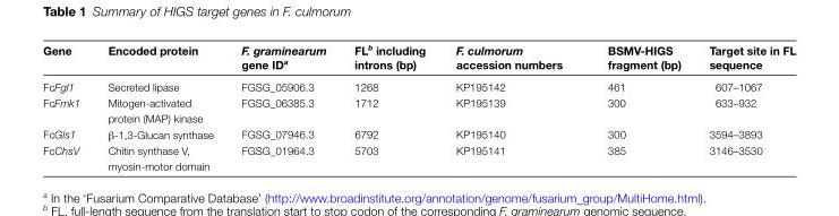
<table><thead><tr><td>Gene</td><td>Encoded protein</td><td>F. graminearum gene ID<sup>a</sup></td><td>FL<sup>b</sup> including introns (bp)</td><td>F. culmorum accession numbers</td><td>BSMV-HIGS fragment (bp)</td><td>Target site in FL sequence</td></tr></thead><tbody><tr><td>FcFgl1</td><td>Secreted lipase</td><td>FGSG_05906.3</td><td>1268</td><td>KP195142</td><td>461</td><td>607–1067</td></tr><tr><td>FcFmk1</td><td>Mitogen-activated protein (MAP) kinase</td><td>FGSG_06385.3</td><td>1712</td><td>KP195139</td><td>300</td><td>633–932</td></tr><tr><td>FcGls1</td><td>β-1,3-Glucan synthase</td><td>FGSG_07946.3</td><td>6792</td><td>KP195140</td><td>300</td><td>3594–3893</td></tr><tr><td>FcChsV</td><td>Chitin synthase V, myosin-motor domain</td><td>FGSG_01964.3</td><td>5703</td><td>KP195141</td><td>385</td><td>3146–3530</td></tr></tbody></table>